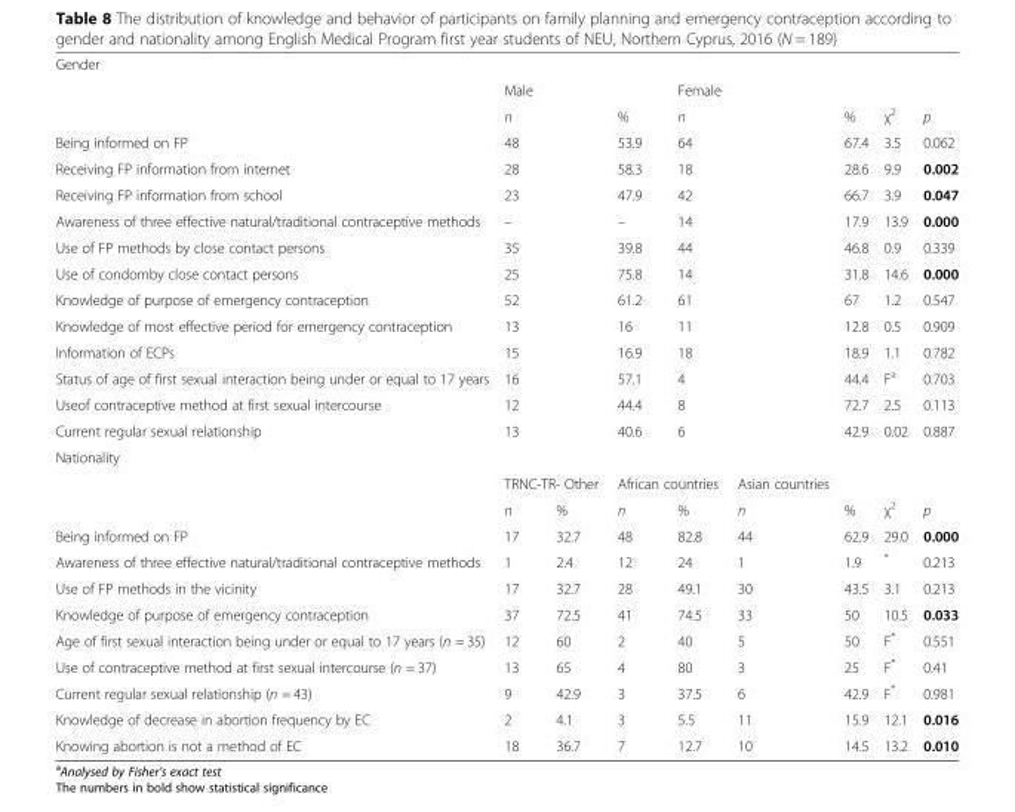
<table><tbody><tr><td colspan="9">Gender</td></tr><tr><td></td><td colspan="3">Male</td><td colspan="3">Female</td><td colspan="2"></td></tr><tr><td></td><td colspan="2">n</td><td>%</td><td colspan="2">n</td><td>%</td><td>χ<sup>2</sup></td><td>p</td></tr><tr><td>Being informed on FP</td><td colspan="2">48</td><td>53.9</td><td colspan="2">64</td><td>67.4</td><td>3.5</td><td>0.062</td></tr><tr><td>Receiving FP information from internet</td><td colspan="2">28</td><td>58.3</td><td colspan="2">18</td><td>28.6</td><td>9.9</td><td>0.002</td></tr><tr><td>Receiving FP information from school</td><td colspan="2">23</td><td>47.9</td><td colspan="2">42</td><td>66.7</td><td>3.9</td><td>0.047</td></tr><tr><td>Awareness of three effective natural/traditional contraceptive methods</td><td colspan="2">–</td><td>–</td><td colspan="2">14</td><td>17.9</td><td>13.9</td><td>0.000</td></tr><tr><td>Use of FP methods by close contact persons</td><td colspan="2">35</td><td>39.8</td><td colspan="2">44</td><td>46.8</td><td>0.9</td><td>0.339</td></tr><tr><td>Use of condomby close contact persons</td><td colspan="2">25</td><td>75.8</td><td colspan="2">14</td><td>31.8</td><td>14.6</td><td>0.000</td></tr><tr><td>Knowledge of purpose of emergency contraception</td><td colspan="2">52</td><td>61.2</td><td colspan="2">61</td><td>67</td><td>1.2</td><td>0.547</td></tr><tr><td>Knowledge of most effective period for emergency contraception</td><td colspan="2">13</td><td>16</td><td colspan="2">11</td><td>12.8</td><td>0.5</td><td>0.909</td></tr><tr><td>Information of ECPs</td><td colspan="2">15</td><td>16.9</td><td colspan="2">18</td><td>18.9</td><td>1.1</td><td>0.782</td></tr><tr><td>Status of age of first sexual interaction being under or equal to 17 years</td><td colspan="2">16</td><td>57.1</td><td colspan="2">4</td><td>44.4</td><td>F<sup>a</sup></td><td>0.703</td></tr><tr><td>Useof contraceptive method at first sexual intercourse</td><td colspan="2">12</td><td>44.4</td><td colspan="2">8</td><td>72.7</td><td>2.5</td><td>0.113</td></tr><tr><td>Current regular sexual relationship</td><td colspan="2">13</td><td>40.6</td><td colspan="2">6</td><td>42.9</td><td>0.02</td><td>0.887</td></tr><tr><td colspan="9">Nationality</td></tr><tr><td rowspan="2"></td><td colspan="2">TRNC-TR- Other</td><td colspan="2">African countries</td><td>Asian countries</td><td></td><td></td><td></td></tr><tr><td>n</td><td>%</td><td>n</td><td>%</td><td>n</td><td>%</td><td>χ<sup>2</sup></td><td>p</td></tr><tr><td>Being informed on FP</td><td>17</td><td>32.7</td><td>48</td><td>82.8</td><td>44</td><td>62.9</td><td>29.0</td><td>0.000</td></tr><tr><td>Awareness of three effective natural/traditional contraceptive methods</td><td>1</td><td>2.4</td><td>12</td><td>24</td><td>1</td><td>1.9</td><td>*</td><td>0.213</td></tr><tr><td>Use of FP methods in the vicinity</td><td>17</td><td>32.7</td><td>28</td><td>49.1</td><td>30</td><td>43.5</td><td>3.1</td><td>0.213</td></tr><tr><td>Knowledge of purpose of emergency contraception</td><td>37</td><td>72.5</td><td>41</td><td>74.5</td><td>33</td><td>50</td><td>10.5</td><td>0.033</td></tr><tr><td>Age of first sexual interaction being under or equal to 17 years (n = 35)</td><td>12</td><td>60</td><td>2</td><td>40</td><td>5</td><td>50</td><td>F*</td><td>0.551</td></tr><tr><td>Use of contraceptive method at first sexual intercourse (n = 37)</td><td>13</td><td>65</td><td>4</td><td>80</td><td>3</td><td>25</td><td>F*</td><td>0.41</td></tr><tr><td>Current regular sexual relationship (n = 43)</td><td>9</td><td>42.9</td><td>3</td><td>37.5</td><td>6</td><td>42.9</td><td>F*</td><td>0.981</td></tr><tr><td>Knowledge of decrease in abortion frequency by EC</td><td>2</td><td>4.1</td><td>3</td><td>5.5</td><td>11</td><td>15.9</td><td>12.1</td><td>0.016</td></tr><tr><td>Knowing abortion is not a method of EC</td><td>18</td><td>36.7</td><td>7</td><td>12.7</td><td>10</td><td>14.5</td><td>13.2</td><td>0.010</td></tr></tbody></table>